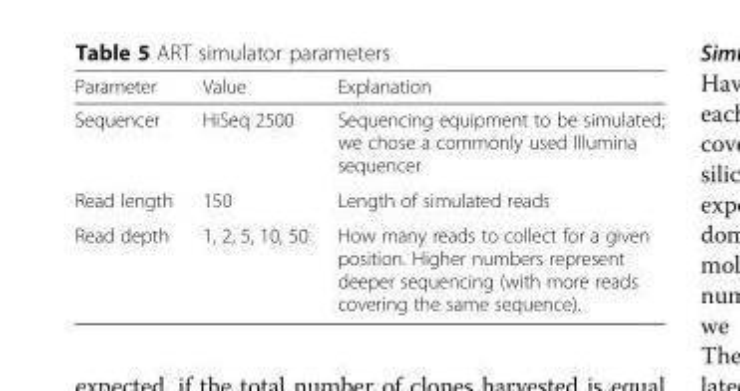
<table><thead><tr><td>Parameter</td><td>Value</td><td>Explanation</td></tr></thead><tbody><tr><td>Sequencer</td><td>HiSeq 2500</td><td>Sequencing equipment to be simulated; we chose a commonly used Illumina sequencer</td></tr><tr><td>Read length</td><td>150</td><td>Length of simulated reads</td></tr><tr><td>Read depth</td><td>1, 2, 5, 10, 50</td><td>How many reads to collect for a given position. Higher numbers represent deeper sequencing (with more reads covering the same sequence).</td></tr></tbody></table>